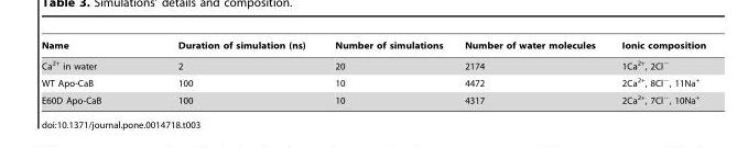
<table><thead><tr><td>Name</td><td>Duration of simulation (ns)</td><td>Number of simulations</td><td>Number of water molecules</td><td>Ionic composition</td></tr></thead><tbody><tr><td>Ca<sup>2+</sup> in water</td><td>2</td><td>20</td><td>2174</td><td>1Ca<sup>2+</sup>, 2Cl<sup>−</sup></td></tr><tr><td>WT Apo-CaB</td><td>100</td><td>10</td><td>4472</td><td>2Ca<sup>2+</sup>, 8Cl<sup>−</sup>, 11Na<sup>+</sup></td></tr><tr><td>E60D Apo-CaB</td><td>100</td><td>10</td><td>4317</td><td>2Ca<sup>2+</sup>, 7Cl<sup>−</sup>, 10Na<sup>+</sup></td></tr></tbody></table>